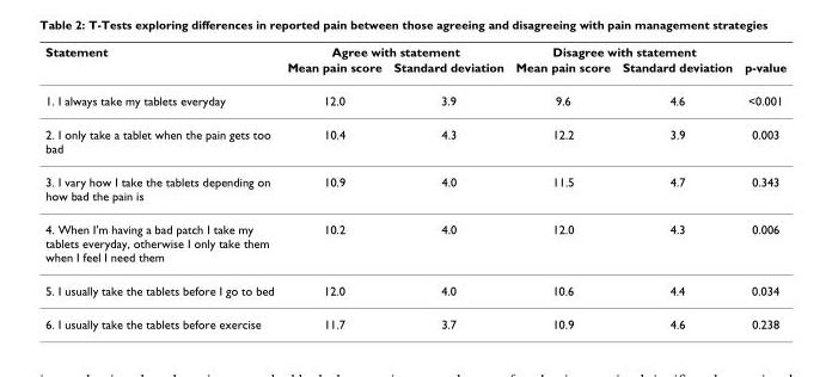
<table><thead><tr><td rowspan="2">Statement</td><td colspan="2">Agree with statement</td><td colspan="2">Disagree with statement</td><td rowspan="2">p-value</td></tr><tr><td>Mean pain score</td><td>Standard deviation</td><td>Mean pain score</td><td>Standard deviation</td></tr></thead><tbody><tr><td>1. I always take my tablets everyday</td><td>12.0</td><td>3.9</td><td>9.6</td><td>4.6</td><td>&lt;0.001</td></tr><tr><td>2. I only take a tablet when the pain gets too bad</td><td>10.4</td><td>4.3</td><td>12.2</td><td>3.9</td><td>0.003</td></tr><tr><td>3. I vary how I take the tablets depending on how bad the pain is</td><td>10.9</td><td>4.0</td><td>11.5</td><td>4.7</td><td>0.343</td></tr><tr><td>4. When I&#x27;m having a bad patch I take my tablets everyday, otherwise I only take them when I feel I need them</td><td>10.2</td><td>4.0</td><td>12.0</td><td>4.3</td><td>0.006</td></tr><tr><td>5. I usually take the tablets before I go to bed</td><td>12.0</td><td>4.0</td><td>10.6</td><td>4.4</td><td>0.034</td></tr><tr><td>6. I usually take the tablets before exercise</td><td>11.7</td><td>3.7</td><td>10.9</td><td>4.6</td><td>0.238</td></tr></tbody></table>